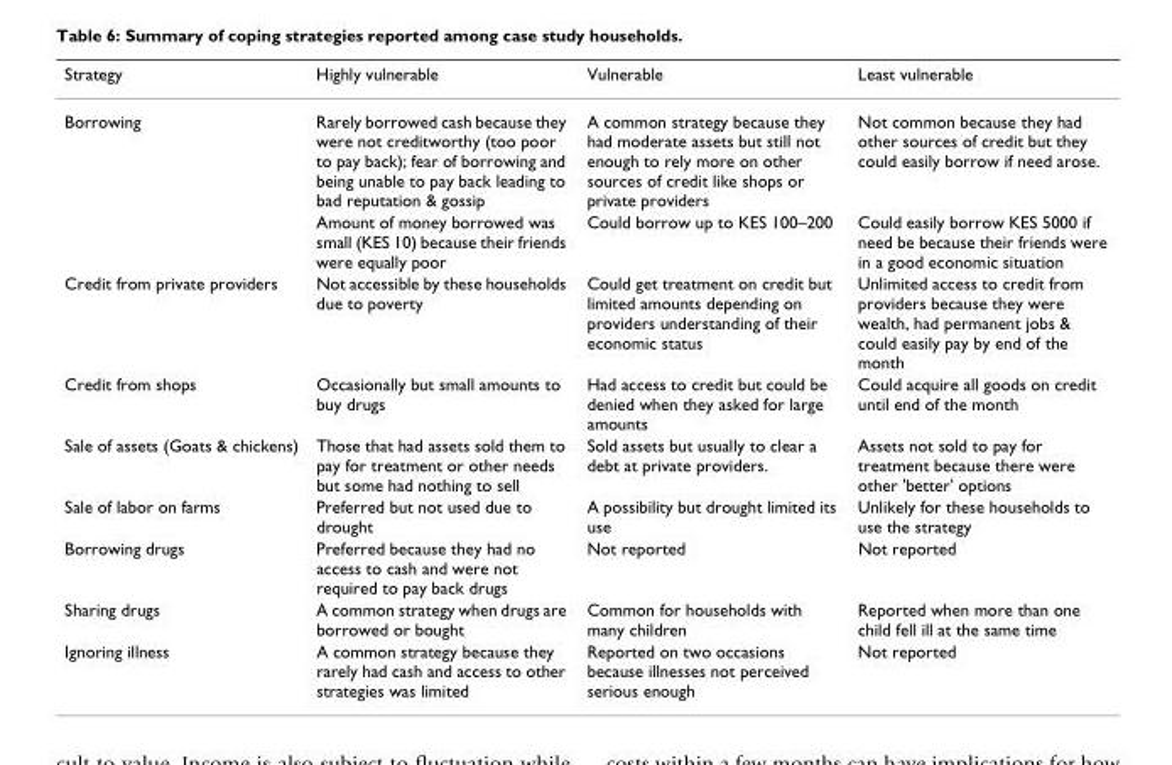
<table><thead><tr><td>Strategy</td><td>Highly vulnerable</td><td>Vulnerable</td><td>Least vulnerable</td></tr></thead><tbody><tr><td rowspan="2">Borrowing</td><td>Rarely borrowed cash because they were not creditworthy (too poor to pay back); fear of borrowing and being unable to pay back leading to bad reputation &amp; gossip</td><td>A common strategy because they had moderate assets but still not enough to rely more on other sources of credit like shops or private providers</td><td>Not common because they had other sources of credit but they could easily borrow if need arose.</td></tr><tr><td>Amount of money borrowed was small (KES 10) because their friends were equally poor</td><td>Could borrow up to KES 100–200</td><td>Could easily borrow KES 5000 if need be because their friends were in a good economic situation</td></tr><tr><td>Credit from private providers</td><td>Not accessible by these households due to poverty</td><td>Could get treatment on credit but limited amounts depending on providers understanding of their economic status</td><td>Unlimited access to credit from providers because they were wealth, had permanent jobs &amp; could easily pay by end of the month</td></tr><tr><td>Credit from shops</td><td>Occasionally but small amounts to buy drugs</td><td>Had access to credit but could be denied when they asked for large amounts</td><td>Could acquire all goods on credit until end of the month</td></tr><tr><td>Sale of assets (Goats &amp; chickens)</td><td>Those that had assets sold them to pay for treatment or other needs but some had nothing to sell</td><td>Sold assets but usually to clear a debt at private providers.</td><td>Assets not sold to pay for treatment because there were other &#x27;better&#x27; options</td></tr><tr><td>Sale of labor on farms</td><td>Preferred but not used due to drought</td><td>A possibility but drought limited its use</td><td>Unlikely for these households to use the strategy</td></tr><tr><td>Borrowing drugs</td><td>Preferred because they had no access to cash and were not required to pay back drugs</td><td>Not reported</td><td>Not reported</td></tr><tr><td>Sharing drugs</td><td>A common strategy when drugs are borrowed or bought</td><td>Common for households with many children</td><td>Reported when more than one child fell ill at the same time</td></tr><tr><td>Ignoring illness</td><td>A common strategy because they rarely had cash and access to other strategies was limited</td><td>Reported on two occasions because illnesses not perceived serious enough</td><td>Not reported</td></tr></tbody></table>